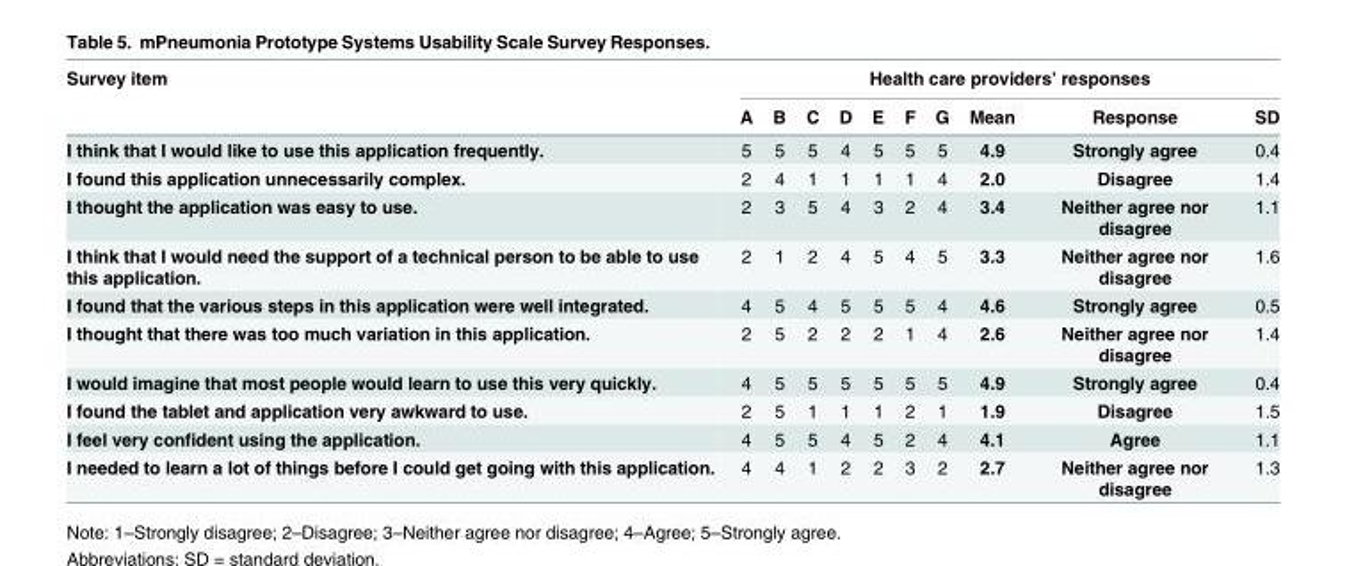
<table><thead><tr><td rowspan="2">Survey item</td><td colspan="10">Health care providers’ responses</td></tr><tr><td>A</td><td>B</td><td>C</td><td>D</td><td>E</td><td>F</td><td>G</td><td>Mean</td><td>Response</td><td>SD</td></tr></thead><tbody><tr><td>I think that I would like to use this application frequently.</td><td>5</td><td>5</td><td>5</td><td>4</td><td>5</td><td>5</td><td>5</td><td>4.9</td><td>Strongly agree</td><td>0.4</td></tr><tr><td>I found this application unnecessarily complex.</td><td>2</td><td>4</td><td>1</td><td>1</td><td>1</td><td>1</td><td>4</td><td>2.0</td><td>Disagree</td><td>1.4</td></tr><tr><td>I thought the application was easy to use.</td><td>2</td><td>3</td><td>5</td><td>4</td><td>3</td><td>2</td><td>4</td><td>3.4</td><td>Neither agree nor disagree</td><td>1.1</td></tr><tr><td>I think that I would need the support of a technical person to be able to use this application.</td><td>2</td><td>1</td><td>2</td><td>4</td><td>5</td><td>4</td><td>5</td><td>3.3</td><td>Neither agree nor disagree</td><td>1.6</td></tr><tr><td>I found that the various steps in this application were well integrated.</td><td>4</td><td>5</td><td>4</td><td>5</td><td>5</td><td>5</td><td>4</td><td>4.6</td><td>Strongly agree</td><td>0.5</td></tr><tr><td>I thought that there was too much variation in this application.</td><td>2</td><td>5</td><td>2</td><td>2</td><td>2</td><td>1</td><td>4</td><td>2.6</td><td>Neither agree nor disagree</td><td>1.4</td></tr><tr><td>I would imagine that most people would learn to use this very quickly.</td><td>4</td><td>5</td><td>5</td><td>5</td><td>5</td><td>5</td><td>5</td><td>4.9</td><td>Strongly agree</td><td>0.4</td></tr><tr><td>I found the tablet and application very awkward to use.</td><td>2</td><td>5</td><td>1</td><td>1</td><td>1</td><td>2</td><td>1</td><td>1.9</td><td>Disagree</td><td>1.5</td></tr><tr><td>I feel very confident using the application.</td><td>4</td><td>5</td><td>5</td><td>4</td><td>5</td><td>2</td><td>4</td><td>4.1</td><td>Agree</td><td>1.1</td></tr><tr><td>I needed to learn a lot of things before I could get going with this application.</td><td>4</td><td>4</td><td>1</td><td>2</td><td>2</td><td>3</td><td>2</td><td>2.7</td><td>Neither agree nor disagree</td><td>1.3</td></tr></tbody></table>